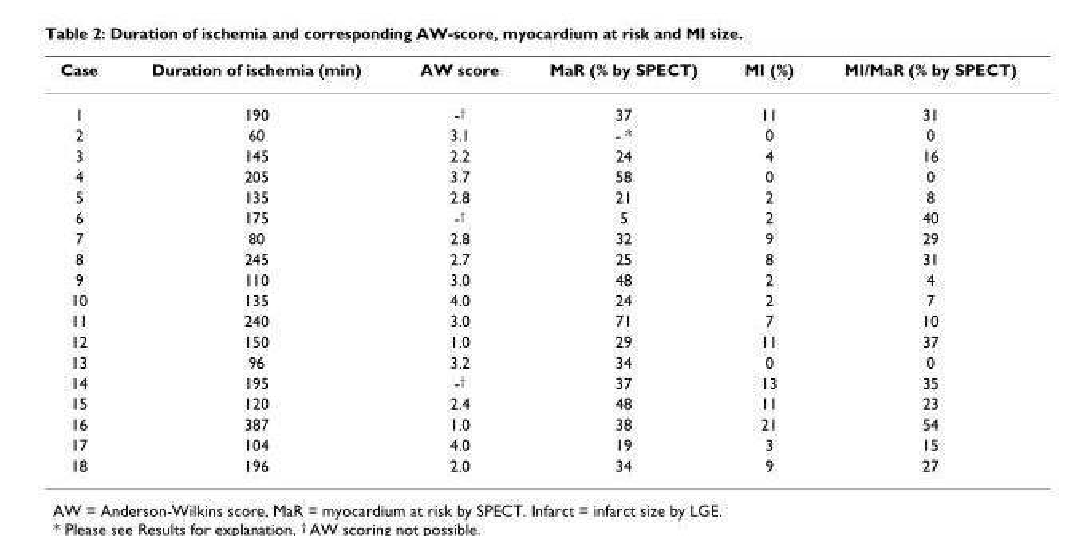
<table><thead><tr><td>Case</td><td>Duration of ischemia (min)</td><td>AW score</td><td>MaR (% by SPECT)</td><td>MI (%)</td><td>MI/MaR (% by SPECT)</td></tr></thead><tbody><tr><td>1</td><td>190</td><td>-<sup>†</sup></td><td>37</td><td>11</td><td>31</td></tr><tr><td>2</td><td>60</td><td>3.1</td><td>- *</td><td>0</td><td>0</td></tr><tr><td>3</td><td>145</td><td>2.2</td><td>24</td><td>4</td><td>16</td></tr><tr><td>4</td><td>205</td><td>3.7</td><td>58</td><td>0</td><td>0</td></tr><tr><td>5</td><td>135</td><td>2.8</td><td>21</td><td>2</td><td>8</td></tr><tr><td>6</td><td>175</td><td>-<sup>†</sup></td><td>5</td><td>2</td><td>40</td></tr><tr><td>7</td><td>80</td><td>2.8</td><td>32</td><td>9</td><td>29</td></tr><tr><td>8</td><td>245</td><td>2.7</td><td>25</td><td>8</td><td>31</td></tr><tr><td>9</td><td>110</td><td>3.0</td><td>48</td><td>2</td><td>4</td></tr><tr><td>10</td><td>135</td><td>4.0</td><td>24</td><td>2</td><td>7</td></tr><tr><td>11</td><td>240</td><td>3.0</td><td>71</td><td>7</td><td>10</td></tr><tr><td>12</td><td>150</td><td>1.0</td><td>29</td><td>11</td><td>37</td></tr><tr><td>13</td><td>96</td><td>3.2</td><td>34</td><td>0</td><td>0</td></tr><tr><td>14</td><td>195</td><td>-<sup>†</sup></td><td>37</td><td>13</td><td>35</td></tr><tr><td>15</td><td>120</td><td>2.4</td><td>48</td><td>11</td><td>23</td></tr><tr><td>16</td><td>387</td><td>1.0</td><td>38</td><td>21</td><td>54</td></tr><tr><td>17</td><td>104</td><td>4.0</td><td>19</td><td>3</td><td>15</td></tr><tr><td>18</td><td>196</td><td>2.0</td><td>34</td><td>9</td><td>27</td></tr></tbody></table>